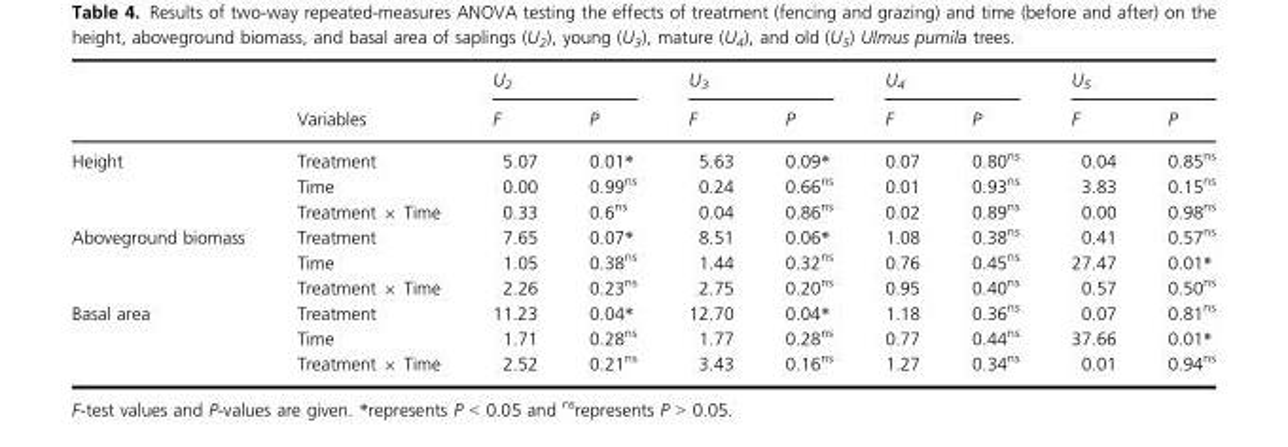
<table><thead><tr><td rowspan="2"></td><td rowspan="2">Variables</td><td colspan="2">U<sub>2</sub></td><td colspan="2">U<sub>3</sub></td><td colspan="2">U<sub>4</sub></td><td colspan="2">U<sub>5</sub></td></tr><tr><td>F</td><td>P</td><td>F</td><td>P</td><td>F</td><td>P</td><td>F</td><td>P</td></tr></thead><tbody><tr><td rowspan="3">Height</td><td>Treatment</td><td>5.07</td><td>0.01*</td><td>5.63</td><td>0.09*</td><td>0.07</td><td>0.80<sup>ns</sup></td><td>0.04</td><td>0.85<sup>ns</sup></td></tr><tr><td>Time</td><td>0.00</td><td>0.99<sup>ns</sup></td><td>0.24</td><td>0.66<sup>ns</sup></td><td>0.01</td><td>0.93<sup>ns</sup></td><td>3.83</td><td>0.15<sup>ns</sup></td></tr><tr><td>Treatment × Time</td><td>0.33</td><td>0.6<sup>ns</sup></td><td>0.04</td><td>0.86<sup>ns</sup></td><td>0.02</td><td>0.89<sup>ns</sup></td><td>0.00</td><td>0.98<sup>ns</sup></td></tr><tr><td rowspan="3">Aboveground biomass</td><td>Treatment</td><td>7.65</td><td>0.07*</td><td>8.51</td><td>0.06*</td><td>1.08</td><td>0.38<sup>ns</sup></td><td>0.41</td><td>0.57<sup>ns</sup></td></tr><tr><td>Time</td><td>1.05</td><td>0.38<sup>ns</sup></td><td>1.44</td><td>0.32<sup>ns</sup></td><td>0.76</td><td>0.45<sup>ns</sup></td><td>27.47</td><td>0.01*</td></tr><tr><td>Treatment × Time</td><td>2.26</td><td>0.23<sup>ns</sup></td><td>2.75</td><td>0.20<sup>ns</sup></td><td>0.95</td><td>0.40<sup>ns</sup></td><td>0.57</td><td>0.50<sup>ns</sup></td></tr><tr><td rowspan="3">Basal area</td><td>Treatment</td><td>11.23</td><td>0.04*</td><td>12.70</td><td>0.04*</td><td>1.18</td><td>0.36<sup>ns</sup></td><td>0.07</td><td>0.81<sup>ns</sup></td></tr><tr><td>Time</td><td>1.71</td><td>0.28<sup>ns</sup></td><td>1.77</td><td>0.28<sup>ns</sup></td><td>0.77</td><td>0.44<sup>ns</sup></td><td>37.66</td><td>0.01*</td></tr><tr><td>Treatment × Time</td><td>2.52</td><td>0.21<sup>ns</sup></td><td>3.43</td><td>0.16<sup>ns</sup></td><td>1.27</td><td>0.34<sup>ns</sup></td><td>0.01</td><td>0.94<sup>ns</sup></td></tr></tbody></table>